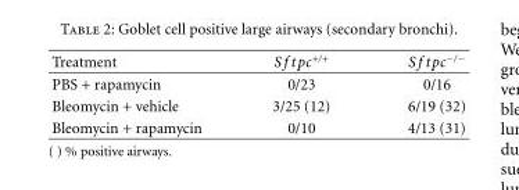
<table><thead><tr><td>Treatment</td><td>S f tpc<sup>+/+</sup></td><td>S f tpc<sup>−/−</sup></td></tr></thead><tbody><tr><td>PBS + rapamycin</td><td>0/23</td><td>0/16</td></tr><tr><td>Bleomycin + vehicle</td><td>3/25 (12)</td><td>6/19 (32)</td></tr><tr><td>Bleomycin + rapamycin</td><td>0/10</td><td>4/13 (31)</td></tr></tbody></table>